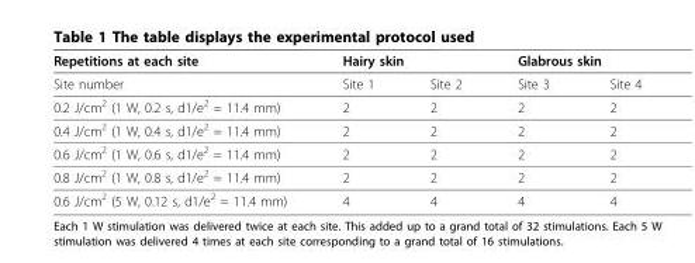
<table><thead><tr><td rowspan="2">Repetitions at each site Site number</td><td colspan="2">Hairy skin</td><td colspan="2">Glabrous skin</td></tr><tr><td>Site 1</td><td>Site 2</td><td>Site 3</td><td>Site 4</td></tr></thead><tbody><tr><td>0.2 J/cm<sup>2</sup> (1 W, 0.2 s, d1/e<sup>2</sup> = 11.4 mm)</td><td>2</td><td>2</td><td>2</td><td>2</td></tr><tr><td>0.4 J/cm<sup>2</sup> (1 W, 0.4 s, d1/e<sup>2</sup> = 11.4 mm)</td><td>2</td><td>2</td><td>2</td><td>2</td></tr><tr><td>0.6 J/cm<sup>2</sup> (1 W, 0.6 s, d1/e<sup>2</sup> = 11.4 mm)</td><td>2</td><td>2</td><td>2</td><td>2</td></tr><tr><td>0.8 J/cm<sup>2</sup> (1 W, 0.8 s, d1/e<sup>2</sup> = 11.4 mm)</td><td>2</td><td>2</td><td>2</td><td>2</td></tr><tr><td>0.6 J/cm<sup>2</sup> (5 W, 0.12 s, d1/e<sup>2</sup> = 11.4 mm)</td><td>4</td><td>4</td><td>4</td><td>4</td></tr></tbody></table>